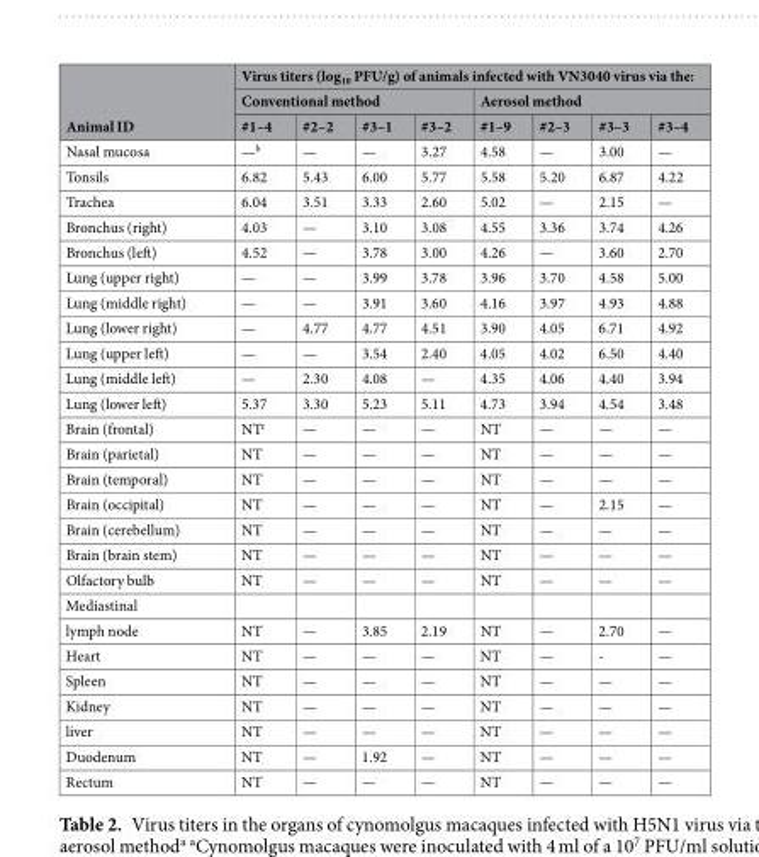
<table><thead><tr><td rowspan="3">Animal ID</td><td colspan="8">Virus titers (log<sub>10</sub> PFU/g) of animals infected with VN3040 virus via the:</td></tr><tr><td colspan="4">Conventional method</td><td colspan="4">Aerosol method</td></tr><tr><td>#1–4</td><td>#2–2</td><td>#3–1</td><td>#3–2</td><td>#1–9</td><td>#2–3</td><td>#3–3</td><td>#3–4</td></tr></thead><tbody><tr><td>Nasal mucosa</td><td>—<sup>b</sup></td><td>—</td><td>—</td><td>3.27</td><td>4.58</td><td>—</td><td>3.00</td><td>—</td></tr><tr><td>Tonsils</td><td>6.82</td><td>5.43</td><td>6.00</td><td>5.77</td><td>5.58</td><td>5.20</td><td>6.87</td><td>4.22</td></tr><tr><td>Trachea</td><td>6.04</td><td>3.51</td><td>3.33</td><td>2.60</td><td>5.02</td><td>—</td><td>2.15</td><td>—</td></tr><tr><td>Bronchus (right)</td><td>4.03</td><td>—</td><td>3.10</td><td>3.08</td><td>4.55</td><td>3.36</td><td>3.74</td><td>4.26</td></tr><tr><td>Bronchus (left)</td><td>4.52</td><td>—</td><td>3.78</td><td>3.00</td><td>4.26</td><td>—</td><td>3.60</td><td>2.70</td></tr><tr><td>Lung (upper right)</td><td>—</td><td>—</td><td>3.99</td><td>3.78</td><td>3.96</td><td>3.70</td><td>4.58</td><td>5.00</td></tr><tr><td>Lung (middle right)</td><td>—</td><td>—</td><td>3.91</td><td>3.60</td><td>4.16</td><td>3.97</td><td>4.93</td><td>4.88</td></tr><tr><td>Lung (lower right)</td><td>—</td><td>4.77</td><td>4.77</td><td>4.51</td><td>3.90</td><td>4.05</td><td>6.71</td><td>4.92</td></tr><tr><td>Lung (upper left)</td><td>—</td><td>—</td><td>3.54</td><td>2.40</td><td>4.05</td><td>4.02</td><td>6.50</td><td>4.40</td></tr><tr><td>Lung (middle left)</td><td>—</td><td>2.30</td><td>4.08</td><td>—</td><td>4.35</td><td>4.06</td><td>4.40</td><td>3.94</td></tr><tr><td>Lung (lower left)</td><td>5.37</td><td>3.30</td><td>5.23</td><td>5.11</td><td>4.73</td><td>3.94</td><td>4.54</td><td>3.48</td></tr><tr><td>Brain (frontal)</td><td>NT<sup>c</sup></td><td>—</td><td>—</td><td>—</td><td>NT</td><td>—</td><td>—</td><td>—</td></tr><tr><td>Brain (parietal)</td><td>NT</td><td>—</td><td>—</td><td>—</td><td>NT</td><td>—</td><td>—</td><td>—</td></tr><tr><td>Brain (temporal)</td><td>NT</td><td>—</td><td>—</td><td>—</td><td>NT</td><td>—</td><td>—</td><td>—</td></tr><tr><td>Brain (occipital)</td><td>NT</td><td>—</td><td>—</td><td>—</td><td>NT</td><td>—</td><td>2.15</td><td>—</td></tr><tr><td>Brain (cerebellum)</td><td>NT</td><td>—</td><td>—</td><td>—</td><td>NT</td><td>—</td><td>—</td><td>—</td></tr><tr><td>Brain (brain stem)</td><td>NT</td><td>—</td><td>—</td><td>—</td><td>NT</td><td>—</td><td>—</td><td>—</td></tr><tr><td>Olfactory bulb</td><td>NT</td><td>—</td><td>—</td><td>—</td><td>NT</td><td>—</td><td>—</td><td>—</td></tr><tr><td colspan="9">Mediastinal</td></tr><tr><td>lymph node</td><td>NT</td><td>—</td><td>3.85</td><td>2.19</td><td>NT</td><td>—</td><td>2.70</td><td>—</td></tr><tr><td>Heart</td><td>NT</td><td>—</td><td>—</td><td>—</td><td>NT</td><td>—</td><td>-</td><td>—</td></tr><tr><td>Spleen</td><td>NT</td><td>—</td><td>—</td><td>—</td><td>NT</td><td>—</td><td>—</td><td>—</td></tr><tr><td>Kidney</td><td>NT</td><td>—</td><td>—</td><td>—</td><td>NT</td><td>—</td><td>—</td><td>—</td></tr><tr><td>liver</td><td>NT</td><td>—</td><td>—</td><td>—</td><td>NT</td><td>—</td><td>—</td><td>—</td></tr><tr><td>Duodenum</td><td>NT</td><td>—</td><td>1.92</td><td>—</td><td>NT</td><td>—</td><td>—</td><td>—</td></tr><tr><td>Rectum</td><td>NT</td><td>—</td><td>—</td><td>—</td><td>NT</td><td>—</td><td>—</td><td>—</td></tr></tbody></table>